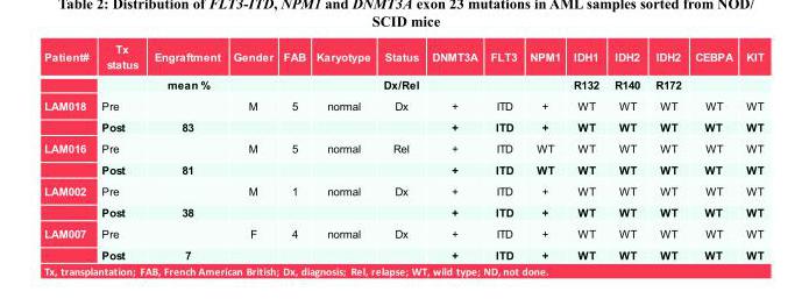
<table><thead><tr><td rowspan="2">Patient#</td><td rowspan="2">Tx status</td><td rowspan="2">Engraftment mean %</td><td rowspan="2">Gender</td><td rowspan="2">FAB</td><td rowspan="2">Karyotype</td><td rowspan="2">Status Dx/Rel</td><td rowspan="2">DNMT3A</td><td rowspan="2">FLT3</td><td rowspan="2">NPM1</td><td rowspan="2">IDH1 R132</td><td rowspan="2">IDH2 R140</td><td rowspan="2">IDH2 R172</td><td rowspan="2">CEBPA</td><td rowspan="2">KIT</td></tr><tr></tr></thead><tbody><tr><td rowspan="2">LAM018</td><td>Pre</td><td></td><td>M</td><td>5</td><td>normal</td><td>Dx</td><td>+</td><td>ITD</td><td>+</td><td>WT</td><td>WT</td><td>WT</td><td>WT</td><td>WT</td></tr><tr><td>Post</td><td>83</td><td></td><td></td><td></td><td></td><td>+</td><td>ITD</td><td>+</td><td>WT</td><td>WT</td><td>WT</td><td>WT</td><td>WT</td></tr><tr><td rowspan="2">LAM016</td><td>Pre</td><td></td><td>M</td><td>5</td><td>normal</td><td>Rel</td><td>+</td><td>ITD</td><td>WT</td><td>WT</td><td>WT</td><td>WT</td><td>WT</td><td>WT</td></tr><tr><td>Post</td><td>81</td><td></td><td></td><td></td><td></td><td>+</td><td>ITD</td><td>WT</td><td>WT</td><td>WT</td><td>WT</td><td>WT</td><td>WT</td></tr><tr><td rowspan="2">LAM002</td><td>Pre</td><td></td><td>M</td><td>1</td><td>normal</td><td>Dx</td><td>+</td><td>ITD</td><td>+</td><td>WT</td><td>WT</td><td>WT</td><td>WT</td><td>WT</td></tr><tr><td>Post</td><td>38</td><td></td><td></td><td></td><td></td><td>+</td><td>ITD</td><td>+</td><td>WT</td><td>WT</td><td>WT</td><td>WT</td><td>WT</td></tr><tr><td rowspan="2">LAM007</td><td>Pre</td><td></td><td>F</td><td>4</td><td>normal</td><td>Dx</td><td>+</td><td>ITD</td><td>+</td><td>WT</td><td>WT</td><td>WT</td><td>WT</td><td>WT</td></tr><tr><td>Post</td><td>7</td><td></td><td></td><td></td><td></td><td>+</td><td>ITD</td><td>+</td><td>WT</td><td>WT</td><td>WT</td><td>WT</td><td>WT</td></tr></tbody></table>